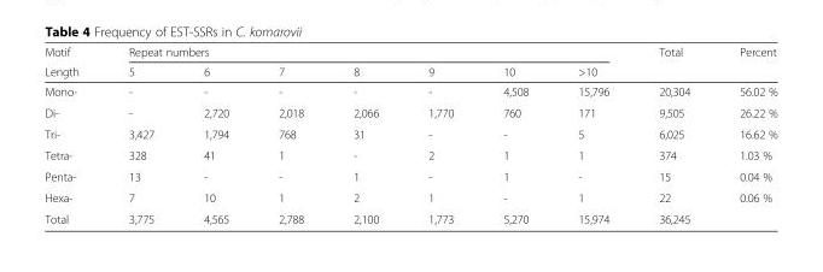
<table><thead><tr><td rowspan="2">Motif Length</td><td colspan="7">Repeat numbers</td><td rowspan="2">Total</td><td rowspan="2">Percent</td></tr><tr><td>5</td><td>6</td><td>7</td><td>8</td><td>9</td><td>10</td><td>&gt;10</td></tr></thead><tbody><tr><td>Mono-</td><td>-</td><td>-</td><td>-</td><td>-</td><td>-</td><td>4,508</td><td>15,796</td><td>20,304</td><td>56.02 %</td></tr><tr><td>Di-</td><td>-</td><td>2,720</td><td>2,018</td><td>2,066</td><td>1,770</td><td>760</td><td>171</td><td>9,505</td><td>26.22 %</td></tr><tr><td>Tri-</td><td>3,427</td><td>1,794</td><td>768</td><td>31</td><td>-</td><td>-</td><td>5</td><td>6,025</td><td>16.62 %</td></tr><tr><td>Tetra-</td><td>328</td><td>41</td><td>1</td><td>-</td><td>2</td><td>1</td><td>1</td><td>374</td><td>1.03 %</td></tr><tr><td>Penta-</td><td>13</td><td>-</td><td>-</td><td>1</td><td>-</td><td>1</td><td>-</td><td>15</td><td>0.04 %</td></tr><tr><td>Hexa-</td><td>7</td><td>10</td><td>1</td><td>2</td><td>1</td><td>-</td><td>1</td><td>22</td><td>0.06 %</td></tr><tr><td>Total</td><td>3,775</td><td>4,565</td><td>2,788</td><td>2,100</td><td>1,773</td><td>5,270</td><td>15,974</td><td>36,245</td><td></td></tr></tbody></table>